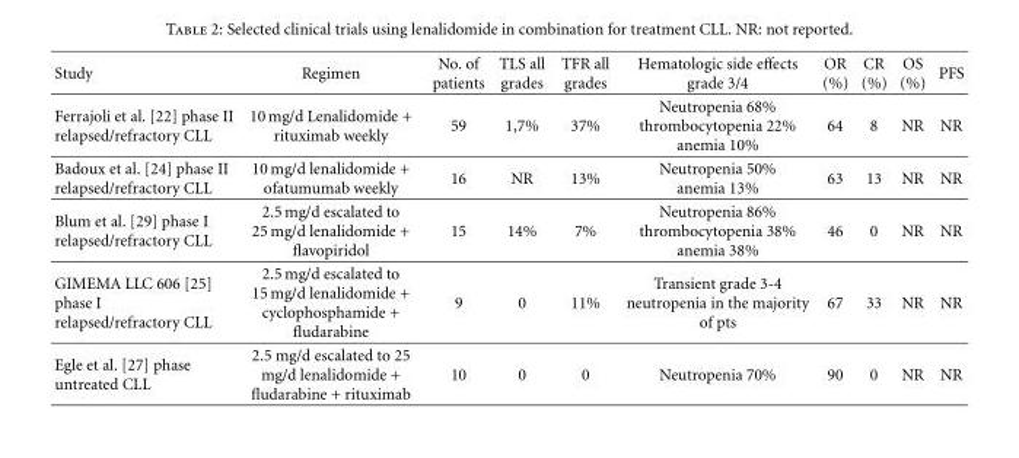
<table><thead><tr><td>Study</td><td>Regimen</td><td>No. of patients</td><td>TLS all grades</td><td>TFR all grades</td><td>Hematologic side effects grade 3/4</td><td>OR (%)</td><td>CR (%)</td><td>OS (%)</td><td>PFS</td></tr></thead><tbody><tr><td>Ferrajoli et al. [22] phase II relapsed/refractory CLL</td><td>10 mg/d Lenalidomide + rituximab weekly</td><td>59</td><td>1,7%</td><td>37%</td><td>Neutropenia 68% thrombocytopenia 22% anemia 10%</td><td>64</td><td>8</td><td>NR</td><td>NR</td></tr><tr><td>Badoux et al. [24] phase II relapsed/refractory CLL</td><td>10 mg/d lenalidomide + ofatumumab weekly</td><td>16</td><td>NR</td><td>13%</td><td>Neutropenia 50% anemia 13%</td><td>63</td><td>13</td><td>NR</td><td>NR</td></tr><tr><td>Blum et al. [29] phase I relapsed/refractory CLL</td><td>2.5 mg/d escalated to 25 mg/d lenalidomide + flavopiridol</td><td>15</td><td>14%</td><td>7%</td><td>Neutropenia 86% thrombocytopenia 38% anemia 38%</td><td>46</td><td>0</td><td>NR</td><td>NR</td></tr><tr><td>GIMEMA LLC 606 [25] phase I relapsed/refractory CLL</td><td>2.5 mg/d escalated to 15 mg/d lenalidomide + cyclophosphamide + fludarabine</td><td>9</td><td>0</td><td>11%</td><td>Transient grade 3-4 neutropenia in the majority of pts</td><td>67</td><td>33</td><td>NR</td><td>NR</td></tr><tr><td>Egle et al. [27] phase untreated CLL</td><td>2.5 mg/d escalated to 25 mg/d lenalidomide + fludarabine + rituximab</td><td>10</td><td>0</td><td>0</td><td>Neutropenia 70%</td><td>90</td><td>0</td><td>NR</td><td>NR</td></tr></tbody></table>